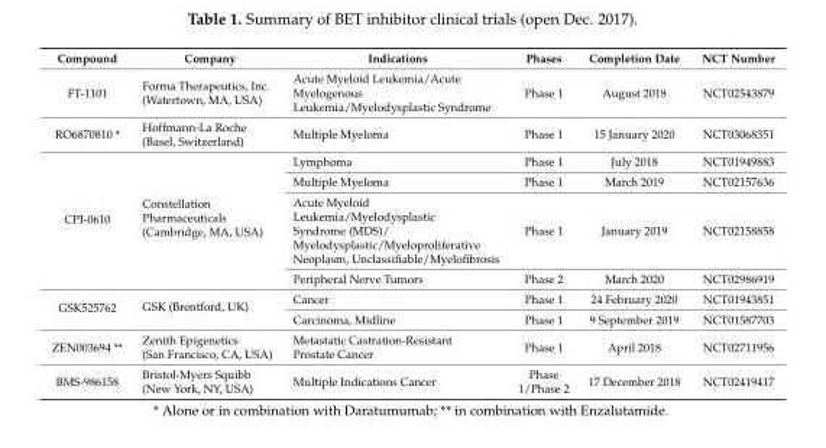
<table><thead><tr><td>Compound</td><td>Company</td><td>Indications</td><td>Phases</td><td>Completion Date</td><td>NCT Number</td></tr></thead><tbody><tr><td>FT-1101</td><td>Forma Therapeutics, Inc. (Watertown, MA, USA)</td><td>Acute Myeloid Leukemia/Acute Myelogenous Leukemia/Myelodysplastic Syndrome</td><td>Phase 1</td><td>August 2018</td><td>NCT02543879</td></tr><tr><td>RO6870810 *</td><td>Hoffmann-La Roche (Basel, Switzerland)</td><td>Multiple Myeloma</td><td>Phase 1</td><td>15 January 2020</td><td>NCT03068351</td></tr><tr><td rowspan="4">CPI-0610</td><td rowspan="4">Constellation Pharmaceuticals (Cambridge, MA, USA)</td><td>Lymphoma</td><td>Phase 1</td><td>July 2018</td><td>NCT01949883</td></tr><tr><td>Multiple Myeloma</td><td>Phase 1</td><td>March 2019</td><td>NCT02157636</td></tr><tr><td>Acute Myeloid Leukemia/Myelodysplastic Syndrome (MDS)/ Myelodysplastic/Myeloproliferative Neoplasm, Unclassifiable/Myelofibrosis</td><td>Phase 1</td><td>January 2019</td><td>NCT02158858</td></tr><tr><td>Peripheral Nerve Tumors</td><td>Phase 2</td><td>March 2020</td><td>NCT02986919</td></tr><tr><td rowspan="2">GSK525762</td><td rowspan="2">GSK (Brentford, UK)</td><td>Cancer</td><td>Phase 1</td><td>24 February 2020</td><td>NCT01943851</td></tr><tr><td>Carcinoma, Midline</td><td>Phase 1</td><td>9 September 2019</td><td>NCT01587703</td></tr><tr><td>ZEN003694 **</td><td>Zenith Epigenetics (San Francisco, CA, USA)</td><td>Metastatic Castration-Resistant Prostate Cancer</td><td>Phase 1</td><td>April 2018</td><td>NCT02711956</td></tr><tr><td>BMS-986158</td><td>Bristol-Myers Squibb (New York, NY, USA)</td><td>Multiple Indications Cancer</td><td>Phase 1/Phase 2</td><td>17 December 2018</td><td>NCT02419417</td></tr></tbody></table>